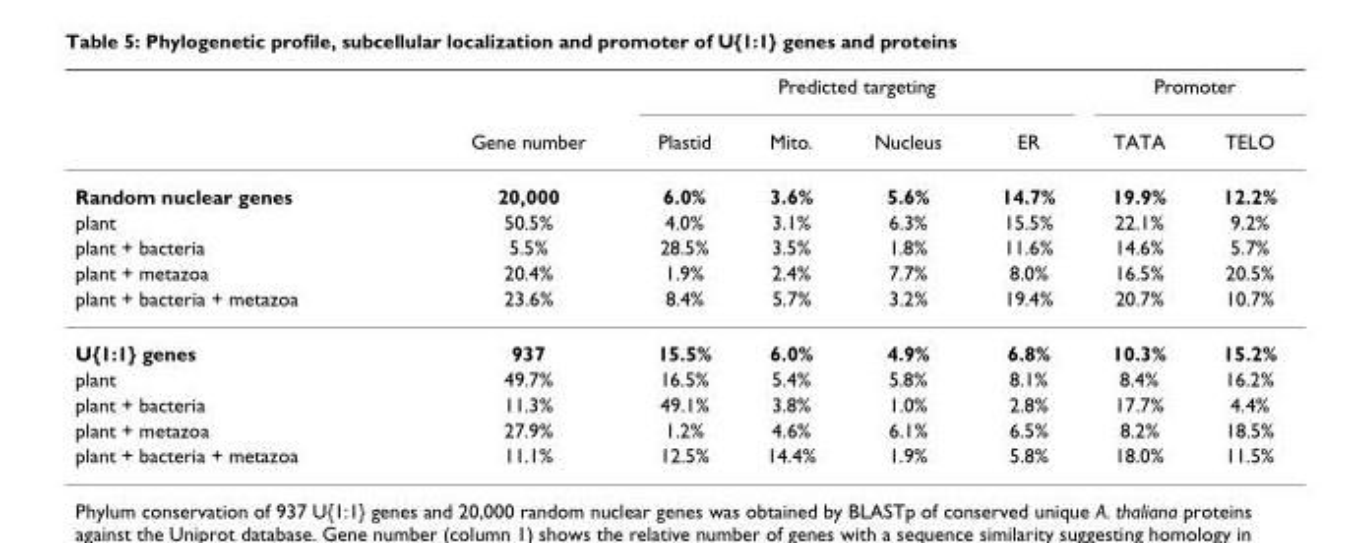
<table><thead><tr><td rowspan="2"></td><td rowspan="2">Gene number</td><td colspan="4">Predicted targeting</td><td colspan="2">Promoter</td></tr><tr><td>Plastid</td><td>Mito.</td><td>Nucleus</td><td>ER</td><td>TATA</td><td>TELO</td></tr></thead><tbody><tr><td>Random nuclear genes</td><td>20,000</td><td>6.0%</td><td>3.6%</td><td>5.6%</td><td>14.7%</td><td>19.9%</td><td>12.2%</td></tr><tr><td>plant</td><td>50.5%</td><td>4.0%</td><td>3.1%</td><td>6.3%</td><td>15.5%</td><td>22.1%</td><td>9.2%</td></tr><tr><td>plant + bacteria</td><td>5.5%</td><td>28.5%</td><td>3.5%</td><td>1.8%</td><td>11.6%</td><td>14.6%</td><td>5.7%</td></tr><tr><td>plant + metazoa</td><td>20.4%</td><td>1.9%</td><td>2.4%</td><td>7.7%</td><td>8.0%</td><td>16.5%</td><td>20.5%</td></tr><tr><td>plant + bacteria + metazoa</td><td>23.6%</td><td>8.4%</td><td>5.7%</td><td>3.2%</td><td>19.4%</td><td>20.7%</td><td>10.7%</td></tr><tr><td>U{1:1} genes</td><td>937</td><td>15.5%</td><td>6.0%</td><td>4.9%</td><td>6.8%</td><td>10.3%</td><td>15.2%</td></tr><tr><td>plant</td><td>49.7%</td><td>16.5%</td><td>5.4%</td><td>5.8%</td><td>8.1%</td><td>8.4%</td><td>16.2%</td></tr><tr><td>plant + bacteria</td><td>11.3%</td><td>49.1%</td><td>3.8%</td><td>1.0%</td><td>2.8%</td><td>17.7%</td><td>4.4%</td></tr><tr><td>plant + metazoa</td><td>27.9%</td><td>1.2%</td><td>4.6%</td><td>6.1%</td><td>6.5%</td><td>8.2%</td><td>18.5%</td></tr><tr><td>plant + bacteria + metazoa</td><td>11.1%</td><td>12.5%</td><td>14.4%</td><td>1.9%</td><td>5.8%</td><td>18.0%</td><td>11.5%</td></tr></tbody></table>